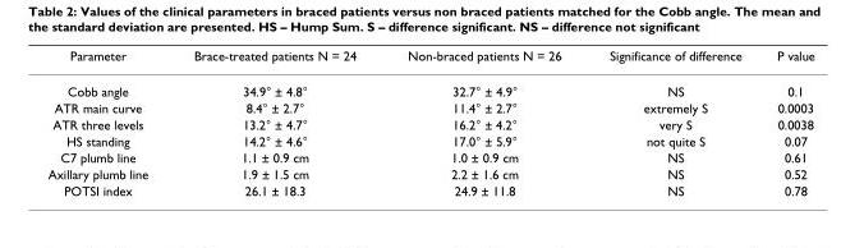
<table><thead><tr><td>Parameter</td><td>Brace-treated patients N = 24</td><td>Non-braced patients N = 26</td><td>Significance of difference</td><td>P value</td></tr></thead><tbody><tr><td>Cobb angle</td><td>34.9° ± 4.8°</td><td>32.7° ± 4.9°</td><td>NS</td><td>0.1</td></tr><tr><td>ATR main curve</td><td>8.4° ± 2.7°</td><td>11.4° ± 2.7°</td><td>extremely S</td><td>0.0003</td></tr><tr><td>ATR three levels</td><td>13.2° ± 4.7°</td><td>16.2° ± 4.2°</td><td>very S</td><td>0.0038</td></tr><tr><td>HS standing</td><td>14.2° ± 4.6°</td><td>17.0° ± 5.9°</td><td>not quite S</td><td>0.07</td></tr><tr><td>C7 plumb line</td><td>1.1 ± 0.9 cm</td><td>1.0 ± 0.9 cm</td><td>NS</td><td>0.61</td></tr><tr><td>Axillary plumb line</td><td>1.9 ± 1.5 cm</td><td>2.2 ± 1.6 cm</td><td>NS</td><td>0.52</td></tr><tr><td>POTSI index</td><td>26.1 ± 18.3</td><td>24.9 ± 11.8</td><td>NS</td><td>0.78</td></tr></tbody></table>